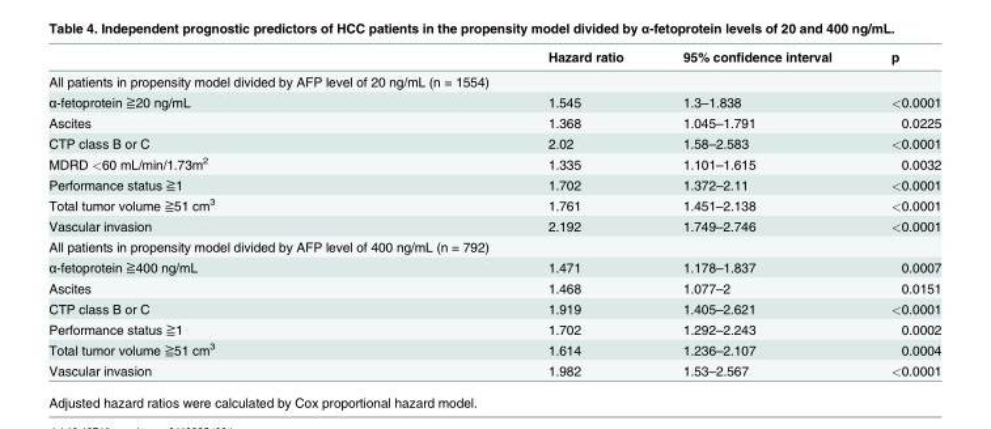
<table><thead><tr><td></td><td>Hazard ratio</td><td>95% confidence interval</td><td>p</td></tr></thead><tbody><tr><td colspan="4">All patients in propensity model divided by AFP level of 20 ng/mL (n = 1554)</td></tr><tr><td>α-fetoprotein ≧20 ng/mL</td><td>1.545</td><td>1.3–1.838</td><td>&lt;0.0001</td></tr><tr><td>Ascites</td><td>1.368</td><td>1.045–1.791</td><td>0.0225</td></tr><tr><td>CTP class B or C</td><td>2.02</td><td>1.58–2.583</td><td>&lt;0.0001</td></tr><tr><td>MDRD &lt;60 mL/min/1.73m<sup>2</sup></td><td>1.335</td><td>1.101–1.615</td><td>0.0032</td></tr><tr><td>Performance status ≧1</td><td>1.702</td><td>1.372–2.11</td><td>&lt;0.0001</td></tr><tr><td>Total tumor volume ≧51 cm<sup>3</sup></td><td>1.761</td><td>1.451–2.138</td><td>&lt;0.0001</td></tr><tr><td>Vascular invasion</td><td>2.192</td><td>1.749–2.746</td><td>&lt;0.0001</td></tr><tr><td colspan="4">All patients in propensity model divided by AFP level of 400 ng/mL (n = 792)</td></tr><tr><td>α-fetoprotein ≧400 ng/mL</td><td>1.471</td><td>1.178–1.837</td><td>0.0007</td></tr><tr><td>Ascites</td><td>1.468</td><td>1.077–2</td><td>0.0151</td></tr><tr><td>CTP class B or C</td><td>1.919</td><td>1.405–2.621</td><td>&lt;0.0001</td></tr><tr><td>Performance status ≧1</td><td>1.702</td><td>1.292–2.243</td><td>0.0002</td></tr><tr><td>Total tumor volume ≧51 cm<sup>3</sup></td><td>1.614</td><td>1.236–2.107</td><td>0.0004</td></tr><tr><td>Vascular invasion</td><td>1.982</td><td>1.53–2.567</td><td>&lt;0.0001</td></tr></tbody></table>